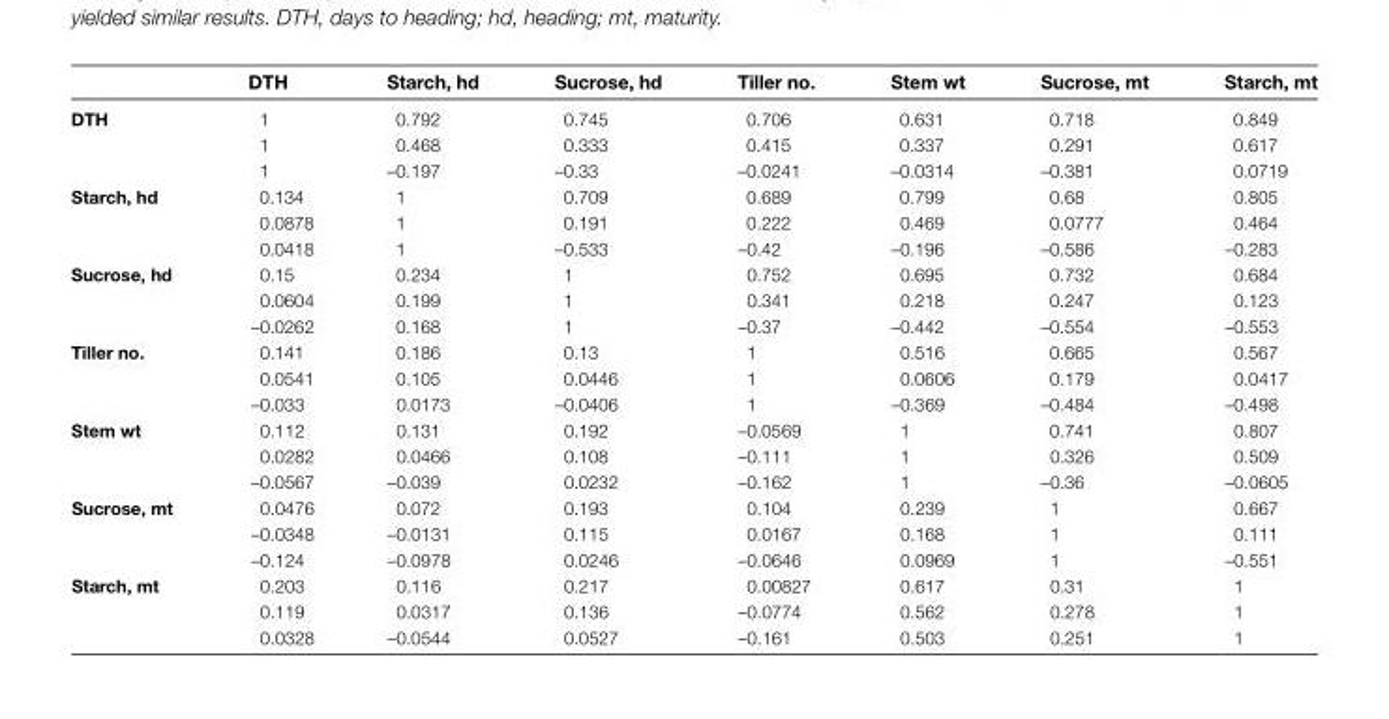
<table><thead><tr><td></td><td>DTH</td><td>Starch, hd</td><td>Sucrose, hd</td><td>Tiller no.</td><td>Stem wt</td><td>Sucrose, mt</td><td>Starch, mt</td></tr></thead><tbody><tr><td rowspan="3">DTH</td><td>1</td><td>0.792</td><td>0.745</td><td>0.706</td><td>0.631</td><td>0.718</td><td>0.849</td></tr><tr><td>1</td><td>0.468</td><td>0.333</td><td>0.415</td><td>0.337</td><td>0.291</td><td>0.617</td></tr><tr><td>1</td><td>–0.197</td><td>–0.33</td><td>–0.0241</td><td>–0.0314</td><td>–0.381</td><td>0.0719</td></tr><tr><td rowspan="3">Starch, hd</td><td>0.134</td><td>1</td><td>0.709</td><td>0.689</td><td>0.799</td><td>0.68</td><td>0.805</td></tr><tr><td>0.0878</td><td>1</td><td>0.191</td><td>0.222</td><td>0.469</td><td>0.0777</td><td>0.464</td></tr><tr><td>0.0418</td><td>1</td><td>–0.533</td><td>–0.42</td><td>–0.196</td><td>–0.586</td><td>–0.283</td></tr><tr><td rowspan="3">Sucrose, hd</td><td>0.15</td><td>0.234</td><td>1</td><td>0.752</td><td>0.695</td><td>0.732</td><td>0.684</td></tr><tr><td>0.0604</td><td>0.199</td><td>1</td><td>0.341</td><td>0.218</td><td>0.247</td><td>0.123</td></tr><tr><td>–0.0262</td><td>0.168</td><td>1</td><td>–0.37</td><td>–0.442</td><td>–0.554</td><td>–0.553</td></tr><tr><td rowspan="3">Tiller no.</td><td>0.141</td><td>0.186</td><td>0.13</td><td>1</td><td>0.516</td><td>0.665</td><td>0.567</td></tr><tr><td>0.0541</td><td>0.105</td><td>0.0446</td><td>1</td><td>0.0606</td><td>0.179</td><td>0.0417</td></tr><tr><td>–0.033</td><td>0.0173</td><td>–0.0406</td><td>1</td><td>–0.369</td><td>–0.484</td><td>–0.498</td></tr><tr><td rowspan="3">Stem wt</td><td>0.112</td><td>0.131</td><td>0.192</td><td>–0.0569</td><td>1</td><td>0.741</td><td>0.807</td></tr><tr><td>0.0282</td><td>0.0466</td><td>0.108</td><td>–0.111</td><td>1</td><td>0.326</td><td>0.509</td></tr><tr><td>–0.0567</td><td>–0.039</td><td>0.0232</td><td>–0.162</td><td>1</td><td>–0.36</td><td>–0.0605</td></tr><tr><td rowspan="3">Sucrose, mt</td><td>0.0476</td><td>0.072</td><td>0.193</td><td>0.104</td><td>0.239</td><td>1</td><td>0.667</td></tr><tr><td>–0.0348</td><td>–0.0131</td><td>0.115</td><td>0.0167</td><td>0.168</td><td>1</td><td>0.111</td></tr><tr><td>–0.124</td><td>–0.0978</td><td>0.0246</td><td>–0.0646</td><td>0.0969</td><td>1</td><td>–0.551</td></tr><tr><td rowspan="3">Starch, mt</td><td>0.203</td><td>0.116</td><td>0.217</td><td>0.00827</td><td>0.617</td><td>0.31</td><td>1</td></tr><tr><td>0.119</td><td>0.0317</td><td>0.136</td><td>–0.0774</td><td>0.562</td><td>0.278</td><td>1</td></tr><tr><td>0.0328</td><td>–0.0544</td><td>0.0527</td><td>–0.161</td><td>0.503</td><td>0.251</td><td>1</td></tr></tbody></table>